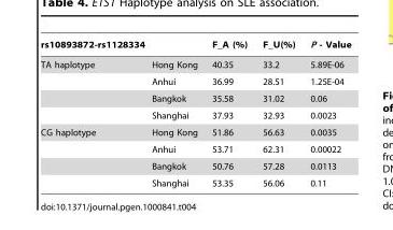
<table><thead><tr><td>rs10893872-rs1128334</td><td></td><td>F_A (%)</td><td>F_U(%)</td><td>P - Value</td></tr></thead><tbody><tr><td rowspan="4">TA haplotype</td><td>Hong Kong</td><td>40.35</td><td>33.2</td><td>5.89E-06</td></tr><tr><td>Anhui</td><td>36.99</td><td>28.51</td><td>1.25E-04</td></tr><tr><td>Bangkok</td><td>35.58</td><td>31.02</td><td>0.06</td></tr><tr><td>Shanghai</td><td>37.93</td><td>32.93</td><td>0.0023</td></tr><tr><td rowspan="4">CG haplotype</td><td>Hong Kong</td><td>51.86</td><td>56.63</td><td>0.0035</td></tr><tr><td>Anhui</td><td>53.71</td><td>62.31</td><td>0.00022</td></tr><tr><td>Bangkok</td><td>50.76</td><td>57.28</td><td>0.0113</td></tr><tr><td>Shanghai</td><td>53.35</td><td>56.06</td><td>0.11</td></tr></tbody></table>